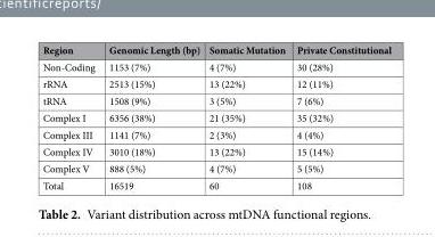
<table><thead><tr><td>Region</td><td>Genomic Length (bp)</td><td>Somatic Mutation</td><td>Private Constitutional</td></tr></thead><tbody><tr><td>Non-Coding</td><td>1153 (7%)</td><td>4 (7%)</td><td>30 (28%)</td></tr><tr><td>rRNA</td><td>2513 (15%)</td><td>13 (22%)</td><td>12 (11%)</td></tr><tr><td>tRNA</td><td>1508 (9%)</td><td>3 (5%)</td><td>7 (6%)</td></tr><tr><td>Complex I</td><td>6356 (38%)</td><td>21 (35%)</td><td>35 (32%)</td></tr><tr><td>Complex III</td><td>1141 (7%)</td><td>2 (3%)</td><td>4 (4%)</td></tr><tr><td>Complex IV</td><td>3010 (18%)</td><td>13 (22%)</td><td>15 (14%)</td></tr><tr><td>Complex V</td><td>888 (5%)</td><td>4 (7%)</td><td>5 (5%)</td></tr><tr><td>Total</td><td>16519</td><td>60</td><td>108</td></tr></tbody></table>